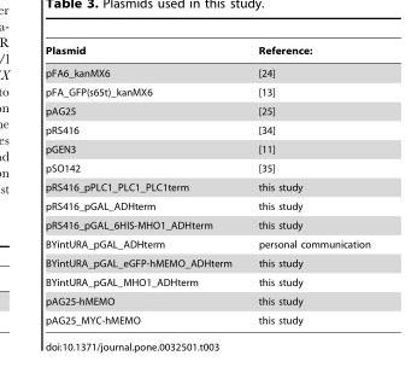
<table><thead><tr><td>Plasmid</td><td>Reference:</td></tr></thead><tbody><tr><td>pFA6_kanMX6</td><td>[24]</td></tr><tr><td>pFA_GFP(s65t)_kanMX6</td><td>[13]</td></tr><tr><td>pAG25</td><td>[25]</td></tr><tr><td>pRS416</td><td>[34]</td></tr><tr><td>pGEN3</td><td>[11]</td></tr><tr><td>pSO142</td><td>[35]</td></tr><tr><td>pRS416_pPLC1_PLC1_PLC1term</td><td>this study</td></tr><tr><td>pRS416_pGAL_ADHterm</td><td>this study</td></tr><tr><td>pRS416_pGAL_6HIS-MHO1_ADHterm</td><td>this study</td></tr><tr><td>BYintURA_pGAL_ADHterm</td><td>personal communication</td></tr><tr><td>BYintURA_pGAL_eGFP-hMEMO_ADHterm</td><td>this study</td></tr><tr><td>BYintURA_pGAL_MHO1_ADHterm</td><td>this study</td></tr><tr><td>pAG25-hMEMO</td><td>this study</td></tr><tr><td>pAG25_MYC-hMEMO</td><td>this study</td></tr></tbody></table>